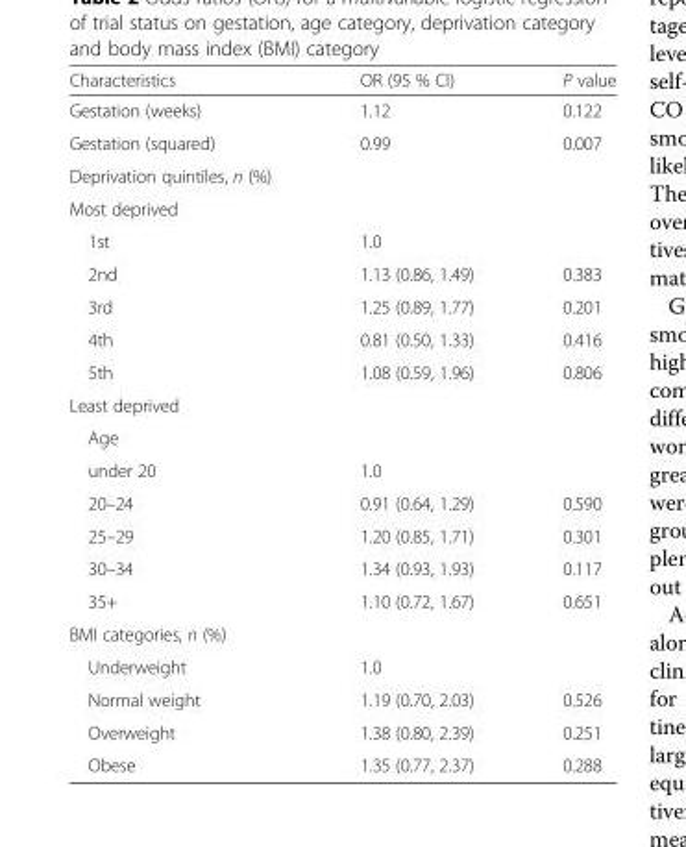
<table><thead><tr><td>Characteristics</td><td>OR (95 % CI)</td><td>P value</td></tr></thead><tbody><tr><td>Gestation (weeks)</td><td>1.12</td><td>0.122</td></tr><tr><td>Gestation (squared)</td><td>0.99</td><td>0.007</td></tr><tr><td colspan="3">Deprivation quintiles, n (%)</td></tr><tr><td colspan="3">Most deprived</td></tr><tr><td>1st</td><td>1.0</td><td></td></tr><tr><td>2nd</td><td>1.13 (0.86, 1.49)</td><td>0.383</td></tr><tr><td>3rd</td><td>1.25 (0.89, 1.77)</td><td>0.201</td></tr><tr><td>4th</td><td>0.81 (0.50, 1.33)</td><td>0.416</td></tr><tr><td>5th</td><td>1.08 (0.59, 1.96)</td><td>0.806</td></tr><tr><td colspan="3">Least deprived</td></tr><tr><td colspan="3">Age</td></tr><tr><td>under 20</td><td>1.0</td><td></td></tr><tr><td>20–24</td><td>0.91 (0.64, 1.29)</td><td>0.590</td></tr><tr><td>25–29</td><td>1.20 (0.85, 1.71)</td><td>0.301</td></tr><tr><td>30–34</td><td>1.34 (0.93, 1.93)</td><td>0.117</td></tr><tr><td>35+</td><td>1.10 (0.72, 1.67)</td><td>0.651</td></tr><tr><td colspan="3">BMI categories, n (%)</td></tr><tr><td>Underweight</td><td>1.0</td><td></td></tr><tr><td>Normal weight</td><td>1.19 (0.70, 2.03)</td><td>0.526</td></tr><tr><td>Overweight</td><td>1.38 (0.80, 2.39)</td><td>0.251</td></tr><tr><td>Obese</td><td>1.35 (0.77, 2.37)</td><td>0.288</td></tr></tbody></table>